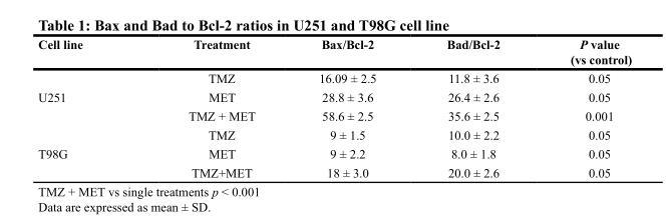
<table><thead><tr><td>Cell line</td><td>Treatment</td><td>Bax/Bcl-2</td><td>Bad/Bcl-2</td><td>P value (vs control)</td></tr></thead><tbody><tr><td rowspan="3">U251</td><td>TMZ</td><td>16.09 ± 2.5</td><td>11.8 ± 3.6</td><td>0.05</td></tr><tr><td>MET</td><td>28.8 ± 3.6</td><td>26.4 ± 2.6</td><td>0.05</td></tr><tr><td>TMZ + MET</td><td>58.6 ± 2.5</td><td>35.6 ± 2.5</td><td>0.001</td></tr><tr><td rowspan="3">T98G</td><td>TMZ</td><td>9 ± 1.5</td><td>10.0 ± 2.2</td><td>0.05</td></tr><tr><td>MET</td><td>9 ± 2.2</td><td>8.0 ± 1.8</td><td>0.05</td></tr><tr><td>TMZ+MET</td><td>18 ± 3.0</td><td>20.0 ± 2.6</td><td>0.05</td></tr></tbody></table>